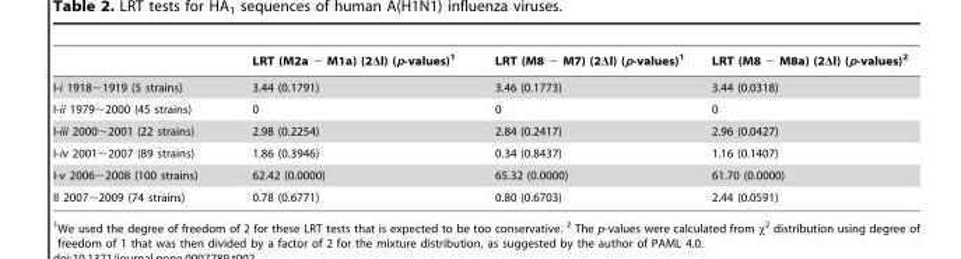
<table><thead><tr><td></td><td>LRT (M2a − M1a) (2Δl) (p-values)<sup>1</sup></td><td>LRT (M8 − M7) (2Δl) (p-values)<sup>1</sup></td><td>LRT (M8 − M8a) (2Δl) (p-values)<sup>2</sup></td></tr></thead><tbody><tr><td>I-i 1918∼1919 (5 strains)</td><td>3.44 (0.1791)</td><td>3.46 (0.1773)</td><td>3.44 (0.0318)</td></tr><tr><td>I-ii 1979∼2000 (45 strains)</td><td>0</td><td>0</td><td>0</td></tr><tr><td>I-iii 2000∼2001 (22 strains)</td><td>2.98 (0.2254)</td><td>2.84 (0.2417)</td><td>2.96 (0.0427)</td></tr><tr><td>I-iv 2001∼2007 (89 strains)</td><td>1.86 (0.3946)</td><td>0.34 (0.8437)</td><td>1.16 (0.1407)</td></tr><tr><td>I-v 2006∼2008 (100 strains)</td><td>62.42 (0.0000)</td><td>65.32 (0.0000)</td><td>61.70 (0.0000)</td></tr><tr><td>II 2007∼2009 (74 strains)</td><td>0.78 (0.6771)</td><td>0.80 (0.6703)</td><td>2.44 (0.0591)</td></tr></tbody></table>